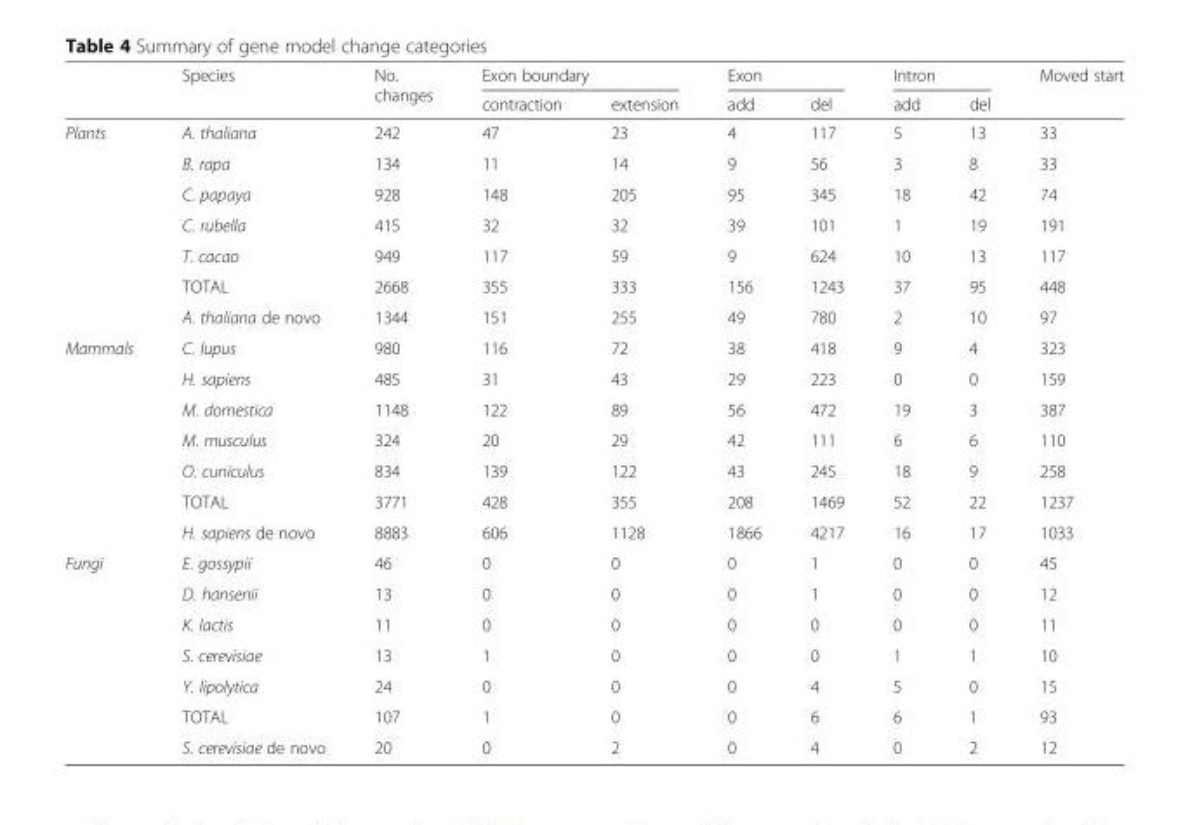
<table><thead><tr><td rowspan="2"></td><td rowspan="2">Species</td><td rowspan="2">No. changes</td><td colspan="2">Exon boundary</td><td colspan="2">Exon</td><td colspan="2">Intron</td><td rowspan="2">Moved start</td></tr><tr><td>contraction</td><td>extension</td><td>add</td><td>del</td><td>add</td><td>del</td></tr></thead><tbody><tr><td rowspan="7">Plants</td><td>A. thaliana</td><td>242</td><td>47</td><td>23</td><td>4</td><td>117</td><td>5</td><td>13</td><td>33</td></tr><tr><td>B. rapa</td><td>134</td><td>11</td><td>14</td><td>9</td><td>56</td><td>3</td><td>8</td><td>33</td></tr><tr><td>C. papaya</td><td>928</td><td>148</td><td>205</td><td>95</td><td>345</td><td>18</td><td>42</td><td>74</td></tr><tr><td>C. rubella</td><td>415</td><td>32</td><td>32</td><td>39</td><td>101</td><td>1</td><td>19</td><td>191</td></tr><tr><td>T. cacao</td><td>949</td><td>117</td><td>59</td><td>9</td><td>624</td><td>10</td><td>13</td><td>117</td></tr><tr><td>TOTAL</td><td>2668</td><td>355</td><td>333</td><td>156</td><td>1243</td><td>37</td><td>95</td><td>448</td></tr><tr><td>A. thaliana de novo</td><td>1344</td><td>151</td><td>255</td><td>49</td><td>780</td><td>2</td><td>10</td><td>97</td></tr><tr><td rowspan="7">Mammals</td><td>C. lupus</td><td>980</td><td>116</td><td>72</td><td>38</td><td>418</td><td>9</td><td>4</td><td>323</td></tr><tr><td>H. sapiens</td><td>485</td><td>31</td><td>43</td><td>29</td><td>223</td><td>0</td><td>0</td><td>159</td></tr><tr><td>M. domestica</td><td>1148</td><td>122</td><td>89</td><td>56</td><td>472</td><td>19</td><td>3</td><td>387</td></tr><tr><td>M. musculus</td><td>324</td><td>20</td><td>29</td><td>42</td><td>111</td><td>6</td><td>6</td><td>110</td></tr><tr><td>O. cuniculus</td><td>834</td><td>139</td><td>122</td><td>43</td><td>245</td><td>18</td><td>9</td><td>258</td></tr><tr><td>TOTAL</td><td>3771</td><td>428</td><td>355</td><td>208</td><td>1469</td><td>52</td><td>22</td><td>1237</td></tr><tr><td>H. sapiens de novo</td><td>8883</td><td>606</td><td>1128</td><td>1866</td><td>4217</td><td>16</td><td>17</td><td>1033</td></tr><tr><td rowspan="7">Fungi</td><td>E. gossypii</td><td>46</td><td>0</td><td>0</td><td>0</td><td>1</td><td>0</td><td>0</td><td>45</td></tr><tr><td>D. hansenii</td><td>13</td><td>0</td><td>0</td><td>0</td><td>1</td><td>0</td><td>0</td><td>12</td></tr><tr><td>K. lactis</td><td>11</td><td>0</td><td>0</td><td>0</td><td>0</td><td>0</td><td>0</td><td>11</td></tr><tr><td>S. cerevisiae</td><td>13</td><td>1</td><td>0</td><td>0</td><td>0</td><td>1</td><td>1</td><td>10</td></tr><tr><td>Y. lipolytica</td><td>24</td><td>0</td><td>0</td><td>0</td><td>4</td><td>5</td><td>0</td><td>15</td></tr><tr><td>TOTAL</td><td>107</td><td>1</td><td>0</td><td>0</td><td>6</td><td>6</td><td>1</td><td>93</td></tr><tr><td>S. cerevisiae de novo</td><td>20</td><td>0</td><td>2</td><td>0</td><td>4</td><td>0</td><td>2</td><td>12</td></tr></tbody></table>